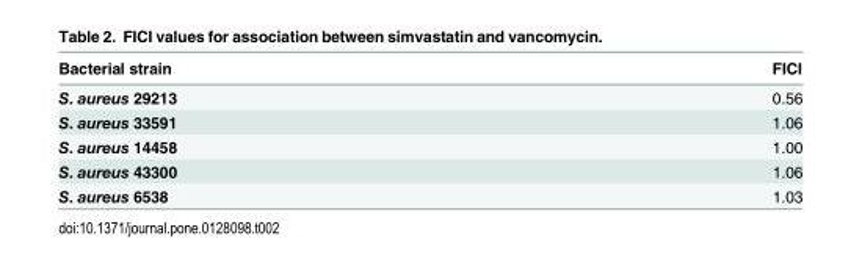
<table><thead><tr><td>Bacterial strain</td><td>FICI</td></tr></thead><tbody><tr><td>S. aureus 29213</td><td>0.56</td></tr><tr><td>S. aureus 33591</td><td>1.06</td></tr><tr><td>S. aureus 14458</td><td>1.00</td></tr><tr><td>S. aureus 43300</td><td>1.06</td></tr><tr><td>S. aureus 6538</td><td>1.03</td></tr></tbody></table>